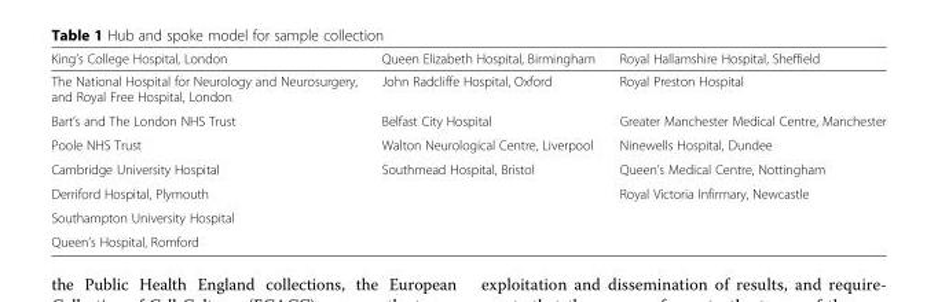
<table><thead><tr><td>King’s College Hospital, London</td><td>Queen Elizabeth Hospital, Birmingham</td><td>Royal Hallamshire Hospital, Sheffield</td></tr></thead><tbody><tr><td>The National Hospital for Neurology and Neurosurgery, and Royal Free Hospital, London</td><td>John Radcliffe Hospital, Oxford</td><td>Royal Preston Hospital</td></tr><tr><td>Bart’s and The London NHS Trust</td><td>Belfast City Hospital</td><td>Greater Manchester Medical Centre, Manchester</td></tr><tr><td>Poole NHS Trust</td><td>Walton Neurological Centre, Liverpool</td><td>Ninewells Hospital, Dundee</td></tr><tr><td>Cambridge University Hospital</td><td>Southmead Hospital, Bristol</td><td>Queen’s Medical Centre, Nottingham</td></tr><tr><td>Derriford Hospital, Plymouth</td><td></td><td>Royal Victoria Infirmary, Newcastle</td></tr><tr><td colspan="3">Southampton University Hospital</td></tr><tr><td>Queen’s Hospital, Romford</td><td></td><td></td></tr></tbody></table>